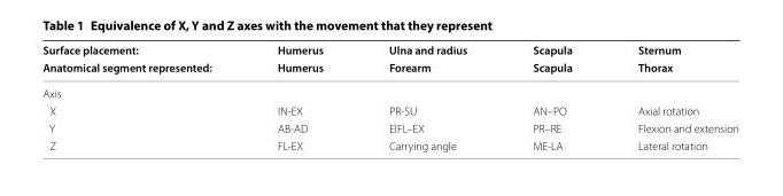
<table><thead><tr><td rowspan="2">Surface placement: Anatomical segment represented:</td><td rowspan="2">Humerus Humerus</td><td rowspan="2">Ulna and radius Forearm</td><td rowspan="2">Scapula Scapula</td><td rowspan="2">Sternum Thorax</td></tr><tr></tr></thead><tbody><tr><td colspan="5">Axis</td></tr><tr><td>X</td><td>IN‑EX</td><td>PR‑SU</td><td>AN–PO</td><td>Axial rotation</td></tr><tr><td>Y</td><td>AB‑AD</td><td>ElFL–EX</td><td>PR–RE</td><td>Flexion and extension</td></tr><tr><td>Z</td><td>FL‑EX</td><td>Carrying angle</td><td>ME‑LA</td><td>Lateral rotation</td></tr></tbody></table>